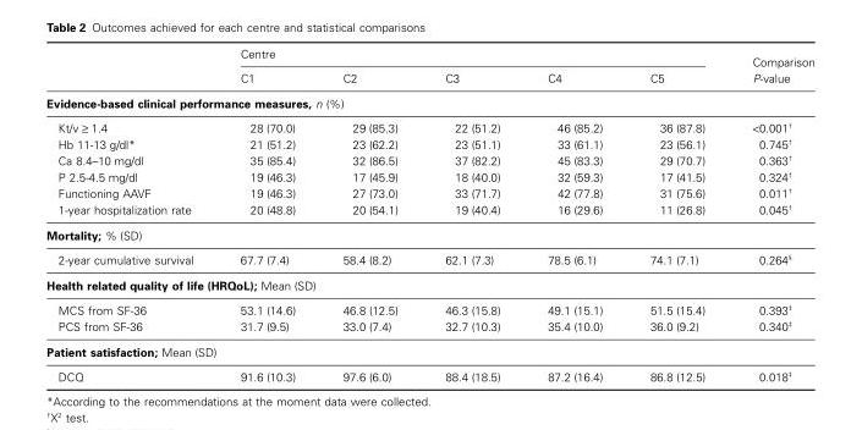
<table><thead><tr><td rowspan="2"></td><td colspan="5">Centre</td><td rowspan="2">Comparison P-value</td></tr><tr><td>C1</td><td>C2</td><td>C3</td><td>C4</td><td>C5</td></tr><tr><td colspan="7">Evidence-based clinical performance measures, n (%)</td></tr></thead><tbody><tr><td>Kt/v ≥ 1.4</td><td>28 (70.0)</td><td>29 (85.3)</td><td>22 (51.2)</td><td>46 (85.2)</td><td>36 (87.8)</td><td>&lt;0.001†</td></tr><tr><td>Hb 11-13 g/dl*</td><td>21 (51.2)</td><td>23 (62.2)</td><td>23 (51.1)</td><td>33 (61.1)</td><td>23 (56.1)</td><td>0.745†</td></tr><tr><td>Ca 8.4–10 mg/dl</td><td>35 (85.4)</td><td>32 (86.5)</td><td>37 (82.2)</td><td>45 (83.3)</td><td>29 (70.7)</td><td>0.363†</td></tr><tr><td>P 2.5-4.5 mg/dl</td><td>19 (46.3)</td><td>17 (45.9)</td><td>18 (40.0)</td><td>32 (59.3)</td><td>17 (41.5)</td><td>0.324†</td></tr><tr><td>Functioning AAVF</td><td>19 (46.3)</td><td>27 (73.0)</td><td>33 (71.7)</td><td>42 (77.8)</td><td>31 (75.6)</td><td>0.011†</td></tr><tr><td>1-year hospitalization rate</td><td>20 (48.8)</td><td>20 (54.1)</td><td>19 (40.4)</td><td>16 (29.6)</td><td>11 (26.8)</td><td>0.045†</td></tr><tr><td colspan="7">Mortality; % (SD)</td></tr><tr><td>2-year cumulative survival</td><td>67.7 (7.4)</td><td>58.4 (8.2)</td><td>62.1 (7.3)</td><td>78.5 (6.1)</td><td>74.1 (7.1)</td><td>0.264§</td></tr><tr><td colspan="7">Health related quality of life (HRQoL); Mean (SD)</td></tr><tr><td>MCS from SF-36</td><td>53.1 (14.6)</td><td>46.8 (12.5)</td><td>46.3 (15.8)</td><td>49.1 (15.1)</td><td>51.5 (15.4)</td><td>0.393‡</td></tr><tr><td>PCS from SF-36</td><td>31.7 (9.5)</td><td>33.0 (7.4)</td><td>32.7 (10.3)</td><td>35.4 (10.0)</td><td>36.0 (9.2)</td><td>0.340‡</td></tr><tr><td colspan="7">Patient satisfaction; Mean (SD)</td></tr><tr><td>DCQ</td><td>91.6 (10.3)</td><td>97.6 (6.0)</td><td>88.4 (18.5)</td><td>87.2 (16.4)</td><td>86.8 (12.5)</td><td>0.018‡</td></tr></tbody></table>